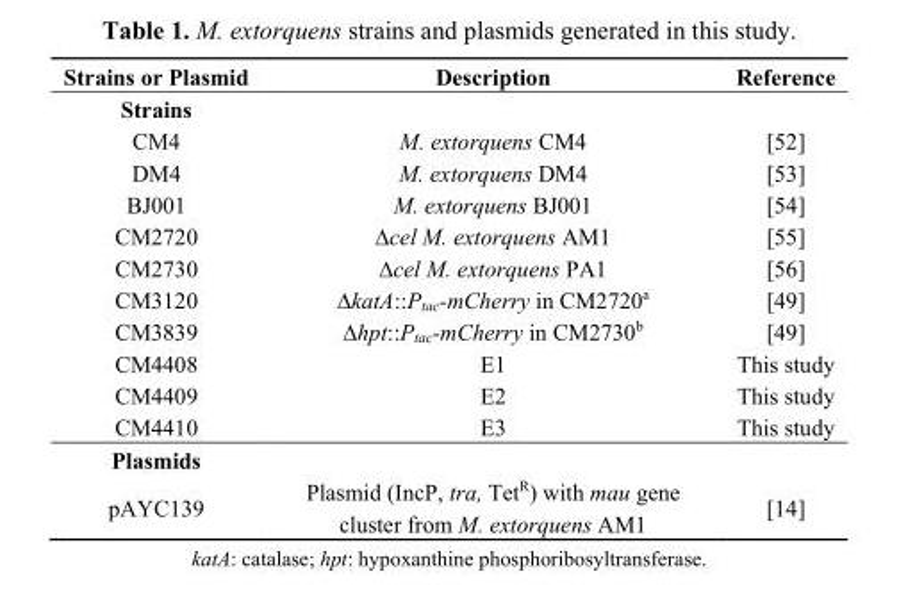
<table><thead><tr><td>Strains or Plasmid</td><td>Description</td><td>Reference</td></tr></thead><tbody><tr><td colspan="3">Strains</td></tr><tr><td>CM4</td><td>M. extorquens CM4</td><td>[52]</td></tr><tr><td>DM4</td><td>M. extorquens DM4</td><td>[53]</td></tr><tr><td>BJ001</td><td>M. extorquens BJ001</td><td>[54]</td></tr><tr><td>CM2720</td><td>∆cel M. extorquens AM1</td><td>[55]</td></tr><tr><td>CM2730</td><td>∆cel M. extorquens PA1</td><td>[56]</td></tr><tr><td>CM3120</td><td>∆katA::P<sub>tac</sub>-mCherry in CM2720<sup>a</sup></td><td>[49]</td></tr><tr><td>CM3839</td><td>∆hpt::P<sub>tac</sub>-mCherry in CM2730<sup>b</sup></td><td>[49]</td></tr><tr><td>CM4408</td><td>E1</td><td>This study</td></tr><tr><td>CM4409</td><td>E2</td><td>This study</td></tr><tr><td>CM4410</td><td>E3</td><td>This study</td></tr><tr><td colspan="3">Plasmids</td></tr><tr><td>pAYC139</td><td>Plasmid (IncP, tra, Tet<sup>R</sup>) with mau gene cluster from M. extorquens AM1</td><td>[14]</td></tr></tbody></table>